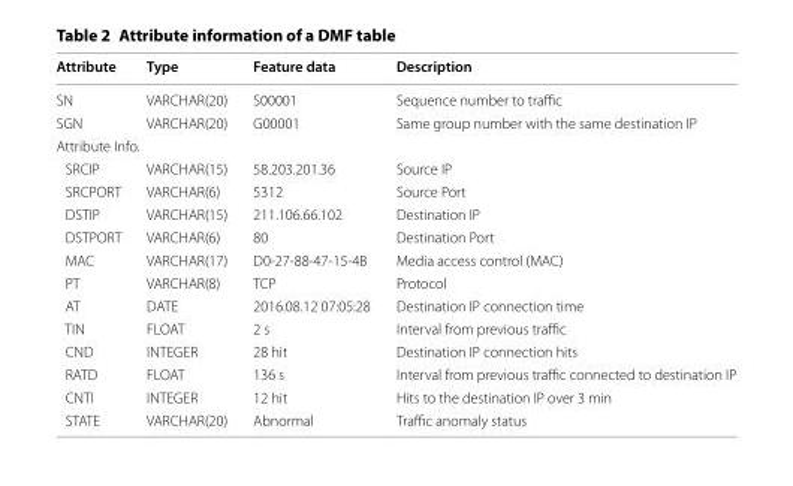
<table><thead><tr><td>Attribute</td><td>Type</td><td>Feature data</td><td>Description</td></tr></thead><tbody><tr><td>SN</td><td>VARCHAR(20)</td><td>S00001</td><td>Sequence number to traffic</td></tr><tr><td>SGN</td><td>VARCHAR(20)</td><td>G00001</td><td>Same group number with the same destination IP</td></tr><tr><td colspan="4">Attribute Info.</td></tr><tr><td>SRCIP</td><td>VARCHAR(15)</td><td>58.203.201.36</td><td>Source IP</td></tr><tr><td>SRCPORT</td><td>VARCHAR(6)</td><td>5312</td><td>Source Port</td></tr><tr><td>DSTIP</td><td>VARCHAR(15)</td><td>211.106.66.102</td><td>Destination IP</td></tr><tr><td>DSTPORT</td><td>VARCHAR(6)</td><td>80</td><td>Destination Port</td></tr><tr><td>MAC</td><td>VARCHAR(17)</td><td>D0-27-88-47-15-4B</td><td>Media access control (MAC)</td></tr><tr><td>PT</td><td>VARCHAR(8)</td><td>TCP</td><td>Protocol</td></tr><tr><td>AT</td><td>DATE</td><td>2016.08.12 07:05:28</td><td>Destination IP connection time</td></tr><tr><td>TIN</td><td>FLOAT</td><td>2 s</td><td>Interval from previous traffic</td></tr><tr><td>CND</td><td>INTEGER</td><td>28 hit</td><td>Destination IP connection hits</td></tr><tr><td>RATD</td><td>FLOAT</td><td>136 s</td><td>Interval from previous traffic connected to destination IP</td></tr><tr><td>CNTI</td><td>INTEGER</td><td>12 hit</td><td>Hits to the destination IP over 3 min</td></tr><tr><td>STATE</td><td>VARCHAR(20)</td><td>Abnormal</td><td>Traffic anomaly status</td></tr></tbody></table>